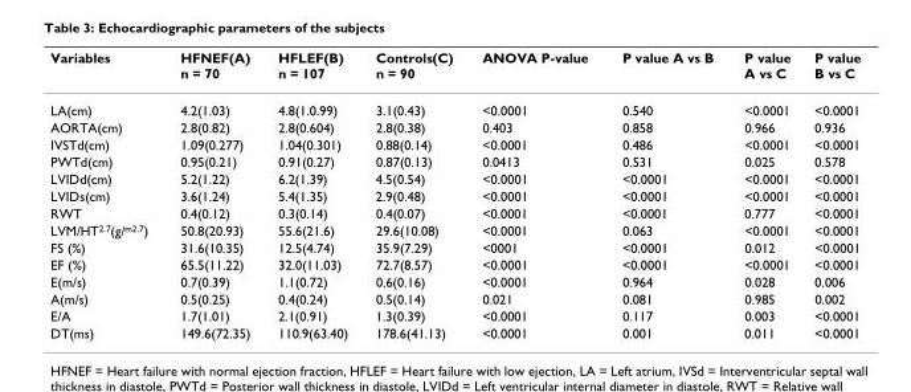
<table><thead><tr><td>Variables</td><td>HFNEF(A) n = 70</td><td>HFLEF(B) n = 107</td><td>Controls(C) n = 90</td><td>ANOVA P-value</td><td>P value A vs B</td><td>P value A vs C</td><td>P value B vs C</td></tr></thead><tbody><tr><td>LA(cm)</td><td>4.2(1.03)</td><td>4.8(1.0.99)</td><td>3.1(0.43)</td><td>&lt;0.0001</td><td>0.540</td><td>&lt;0.0001</td><td>&lt;0.0001</td></tr><tr><td>AORTA(cm)</td><td>2.8(0.82)</td><td>2.8(0.604)</td><td>2.8(0.38)</td><td>0.403</td><td>0.858</td><td>0.966</td><td>0.936</td></tr><tr><td>IVSTd(cm)</td><td>1.09(0.277)</td><td>1.04(0.301)</td><td>0.88(0.14)</td><td>&lt;0.0001</td><td>0.486</td><td>&lt;0.0001</td><td>&lt;0.0001</td></tr><tr><td>PWTd(cm)</td><td>0.95(0.21)</td><td>0.91(0.27)</td><td>0.87(0.13)</td><td>0.0413</td><td>0.531</td><td>0.025</td><td>0.578</td></tr><tr><td>LVIDd(cm)</td><td>5.2(1.22)</td><td>6.2(1.39)</td><td>4.5(0.54)</td><td>&lt;0.0001</td><td>&lt;0.0001</td><td>&lt;0.0001</td><td>&lt;0.0001</td></tr><tr><td>LVIDs(cm)</td><td>3.6(1.24)</td><td>5.4(1.35)</td><td>2.9(0.48)</td><td>&lt;0.0001</td><td>&lt;0.0001</td><td>&lt;0.0001</td><td>&lt;0.0001</td></tr><tr><td>RWT</td><td>0.4(0.12)</td><td>0.3(0.14)</td><td>0.4(0.07)</td><td>&lt;0.0001</td><td>&lt;0.0001</td><td>0.777</td><td>&lt;0.0001</td></tr><tr><td>LVM/HT<sup>2.7</sup>(g/<sup>m2.7</sup>)</td><td>50.8(20.93)</td><td>55.6(21.6)</td><td>29.6(10.08)</td><td>&lt;0.0001</td><td>0.063</td><td>&lt;0.0001</td><td>&lt;0.0001</td></tr><tr><td>FS (%)</td><td>31.6(10.35)</td><td>12.5(4.74)</td><td>35.9(7.29)</td><td>&lt;0001</td><td>&lt;0.0001</td><td>0.012</td><td>&lt;0.0001</td></tr><tr><td>EF (%)</td><td>65.5(11.22)</td><td>32.0(11.03)</td><td>72.7(8.57)</td><td>&lt;0.0001</td><td>&lt;0.0001</td><td>&lt;0.0001</td><td>&lt;0.0001</td></tr><tr><td>E(m/s)</td><td>0.7(0.39)</td><td>1.1(0.72)</td><td>0.6(0.16)</td><td>&lt;0.0001</td><td>0.964</td><td>0.028</td><td>0.006</td></tr><tr><td>A(m/s)</td><td>0.5(0.25)</td><td>0.4(0.24)</td><td>0.5(0.14)</td><td>0.021</td><td>0.081</td><td>0.985</td><td>0.002</td></tr><tr><td>E/A</td><td>1.7(1.01)</td><td>2.1(0.91)</td><td>1.3(0.39)</td><td>&lt;0.0001</td><td>0.117</td><td>0.003</td><td>&lt;0.0001</td></tr><tr><td>DT(ms)</td><td>149.6(72.35)</td><td>110.9(63.40)</td><td>178.6(41.13)</td><td>&lt;0.0001</td><td>0.001</td><td>0.011</td><td>&lt;0.0001</td></tr></tbody></table>